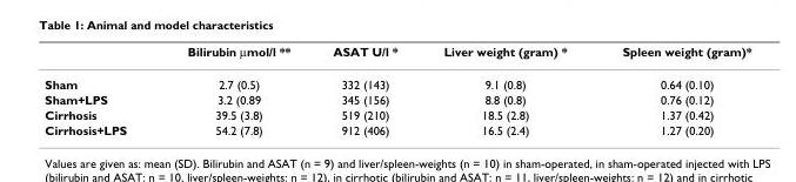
<table><thead><tr><td></td><td>Bilirubin μmol/l **</td><td>ASAT U/l *</td><td>Liver weight (gram) *</td><td>Spleen weight (gram)*</td></tr></thead><tbody><tr><td>Sham</td><td>2.7 (0.5)</td><td>332 (143)</td><td>9.1 (0.8)</td><td>0.64 (0.10)</td></tr><tr><td>Sham+LPS</td><td>3.2 (0.89</td><td>345 (156)</td><td>8.8 (0.8)</td><td>0.76 (0.12)</td></tr><tr><td>Cirrhosis</td><td>39.5 (3.8)</td><td>519 (210)</td><td>18.5 (2.8)</td><td>1.37 (0.42)</td></tr><tr><td>Cirrhosis+LPS</td><td>54.2 (7.8)</td><td>912 (406)</td><td>16.5 (2.4)</td><td>1.27 (0.20)</td></tr></tbody></table>